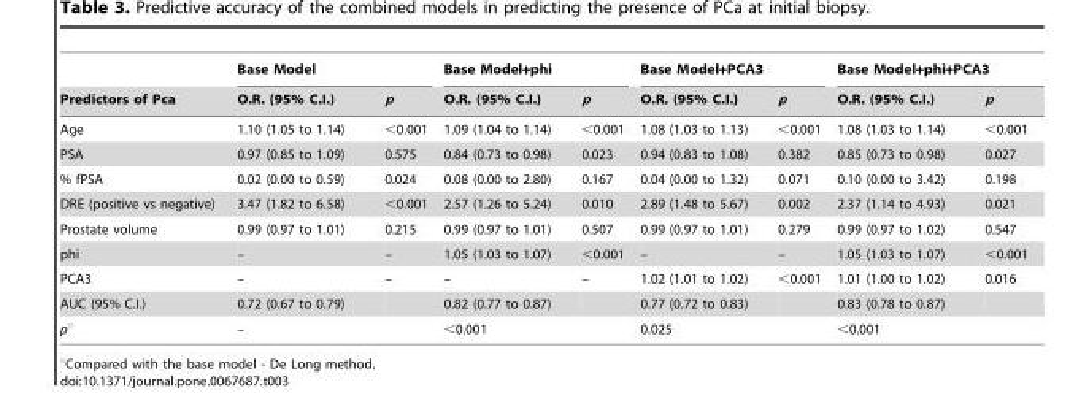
<table><thead><tr><td rowspan="2">Predictors of Pca</td><td colspan="2">Base Model</td><td colspan="2">Base Model+phi</td><td colspan="2">Base Model+PCA3</td><td colspan="2">Base Model+phi+PCA3</td></tr><tr><td>O.R. (95% C.I.)</td><td>p</td><td>O.R. (95% C.I.)</td><td>p</td><td>O.R. (95% C.I.)</td><td>p</td><td>O.R. (95% C.I.)</td><td>p</td></tr></thead><tbody><tr><td>Age</td><td>1.10 (1.05 to 1.14)</td><td>&lt;0.001</td><td>1.09 (1.04 to 1.14)</td><td>&lt;0.001</td><td>1.08 (1.03 to 1.13)</td><td>&lt;0.001</td><td>1.08 (1.03 to 1.14)</td><td>&lt;0.001</td></tr><tr><td>PSA</td><td>0.97 (0.85 to 1.09)</td><td>0.575</td><td>0.84 (0.73 to 0.98)</td><td>0.023</td><td>0.94 (0.83 to 1.08)</td><td>0.382</td><td>0.85 (0.73 to 0.98)</td><td>0.027</td></tr><tr><td>% fPSA</td><td>0.02 (0.00 to 0.59)</td><td>0.024</td><td>0.08 (0.00 to 2.80)</td><td>0.167</td><td>0.04 (0.00 to 1.32)</td><td>0.071</td><td>0.10 (0.00 to 3.42)</td><td>0.198</td></tr><tr><td>DRE (positive vs negative)</td><td>3.47 (1.82 to 6.58)</td><td>&lt;0.001</td><td>2.57 (1.26 to 5.24)</td><td>0.010</td><td>2.89 (1.48 to 5.67)</td><td>0.002</td><td>2.37 (1.14 to 4.93)</td><td>0.021</td></tr><tr><td>Prostate volume</td><td>0.99 (0.97 to 1.01)</td><td>0.215</td><td>0.99 (0.97 to 1.01)</td><td>0.507</td><td>0.99 (0.97 to 1.01)</td><td>0.279</td><td>0.99 (0.97 to 1.02)</td><td>0.547</td></tr><tr><td>phi</td><td>–</td><td>–</td><td>1.05 (1.03 to 1.07)</td><td>&lt;0.001</td><td>–</td><td>–</td><td>1.05 (1.03 to 1.07)</td><td>&lt;0.001</td></tr><tr><td>PCA3</td><td>–</td><td>–</td><td>–</td><td>–</td><td>1.02 (1.01 to 1.02)</td><td>&lt;0.001</td><td>1.01 (1.00 to 1.02)</td><td>0.016</td></tr><tr><td>AUC (95% C.I.)</td><td>0.72 (0.67 to 0.79)</td><td></td><td>0.82 (0.77 to 0.87)</td><td></td><td>0.77 (0.72 to 0.83)</td><td></td><td>0.83 (0.78 to 0.87)</td><td></td></tr><tr><td>p°</td><td>–</td><td></td><td>&lt;0.001</td><td></td><td>0.025</td><td></td><td>&lt;0.001</td><td></td></tr></tbody></table>